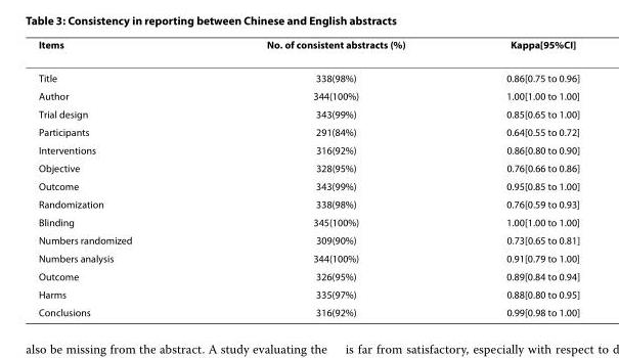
<table><thead><tr><td>Items</td><td>No. of consistent abstracts (%)</td><td>Kappa[95%CI]</td></tr></thead><tbody><tr><td>Title</td><td>338(98%)</td><td>0.86[0.75 to 0.96]</td></tr><tr><td>Author</td><td>344(100%)</td><td>1.00[1.00 to 1.00]</td></tr><tr><td>Trial design</td><td>343(99%)</td><td>0.85[0.65 to 1.00]</td></tr><tr><td>Participants</td><td>291(84%)</td><td>0.64[0.55 to 0.72]</td></tr><tr><td>Interventions</td><td>316(92%)</td><td>0.86[0.80 to 0.90]</td></tr><tr><td>Objective</td><td>328(95%)</td><td>0.76[0.66 to 0.86]</td></tr><tr><td>Outcome</td><td>343(99%)</td><td>0.95[0.85 to 1.00]</td></tr><tr><td>Randomization</td><td>338(98%)</td><td>0.76[0.59 to 0.93]</td></tr><tr><td>Blinding</td><td>345(100%)</td><td>1.00[1.00 to 1.00]</td></tr><tr><td>Numbers randomized</td><td>309(90%)</td><td>0.73[0.65 to 0.81]</td></tr><tr><td>Numbers analysis</td><td>344(100%)</td><td>0.91[0.79 to 1.00]</td></tr><tr><td>Outcome</td><td>326(95%)</td><td>0.89[0.84 to 0.94]</td></tr><tr><td>Harms</td><td>335(97%)</td><td>0.88[0.80 to 0.95]</td></tr><tr><td>Conclusions</td><td>316(92%)</td><td>0.99[0.98 to 1.00]</td></tr></tbody></table>